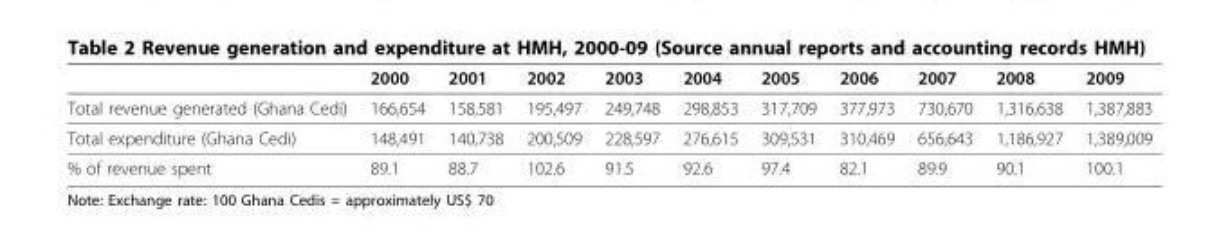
<table><thead><tr><td></td><td>2000</td><td>2001</td><td>2002</td><td>2003</td><td>2004</td><td>2005</td><td>2006</td><td>2007</td><td>2008</td><td>2009</td></tr></thead><tbody><tr><td>Total revenue generated (Ghana Cedi)</td><td>166,654</td><td>158,581</td><td>195,497</td><td>249,748</td><td>298,853</td><td>317,709</td><td>377,973</td><td>730,670</td><td>1,316,638</td><td>1,387,883</td></tr><tr><td>Total expenditure (Ghana Cedi)</td><td>148,491</td><td>140,738</td><td>200,509</td><td>228,597</td><td>276,615</td><td>309,531</td><td>310,469</td><td>656,643</td><td>1,186,927</td><td>1,389,009</td></tr><tr><td>% of revenue spent</td><td>89.1</td><td>88.7</td><td>102.6</td><td>91.5</td><td>92.6</td><td>97.4</td><td>82.1</td><td>89.9</td><td>90.1</td><td>100.1</td></tr></tbody></table>